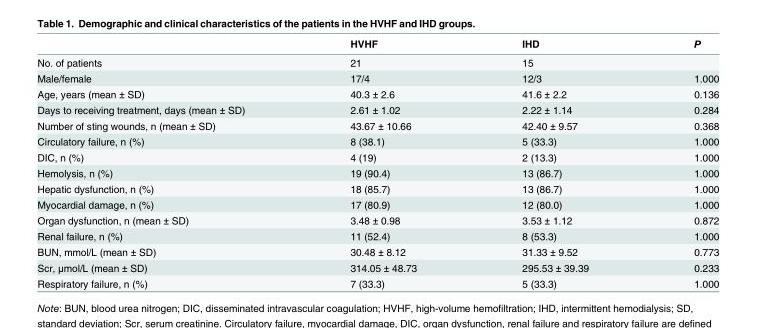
<table><thead><tr><td></td><td>HVHF</td><td>IHD</td><td>P</td></tr></thead><tbody><tr><td>No. of patients</td><td>21</td><td>15</td><td></td></tr><tr><td>Male/female</td><td>17/4</td><td>12/3</td><td>1.000</td></tr><tr><td>Age, years (mean ± SD)</td><td>40.3 ± 2.6</td><td>41.6 ± 2.2</td><td>0.136</td></tr><tr><td>Days to receiving treatment, days (mean ± SD)</td><td>2.61 ± 1.02</td><td>2.22 ± 1.14</td><td>0.284</td></tr><tr><td>Number of sting wounds, n (mean ± SD)</td><td>43.67 ± 10.66</td><td>42.40 ± 9.57</td><td>0.368</td></tr><tr><td>Circulatory failure, n (%)</td><td>8 (38.1)</td><td>5 (33.3)</td><td>1.000</td></tr><tr><td>DIC, n (%)</td><td>4 (19)</td><td>2 (13.3)</td><td>1.000</td></tr><tr><td>Hemolysis, n (%)</td><td>19 (90.4)</td><td>13 (86.7)</td><td>1.000</td></tr><tr><td>Hepatic dysfunction, n (%)</td><td>18 (85.7)</td><td>13 (86.7)</td><td>1.000</td></tr><tr><td>Myocardial damage, n (%)</td><td>17 (80.9)</td><td>12 (80.0)</td><td>1.000</td></tr><tr><td>Organ dysfunction, n (mean ± SD)</td><td>3.48 ± 0.98</td><td>3.53 ± 1.12</td><td>0.872</td></tr><tr><td>Renal failure, n (%)</td><td>11 (52.4)</td><td>8 (53.3)</td><td>1.000</td></tr><tr><td>BUN, mmol/L (mean ± SD)</td><td>30.48 ± 8.12</td><td>31.33 ± 9.52</td><td>0.773</td></tr><tr><td>Scr, μmol/L (mean ± SD)</td><td>314.05 ± 48.73</td><td>295.53 ± 39.39</td><td>0.233</td></tr><tr><td>Respiratory failure, n (%)</td><td>7 (33.3)</td><td>5 (33.3)</td><td>1.000</td></tr></tbody></table>